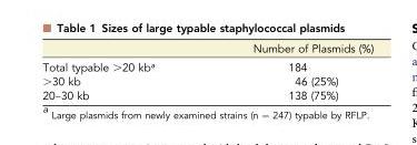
<table><thead><tr><td></td><td>Number of Plasmids (%)</td></tr></thead><tbody><tr><td>Total typable &gt;20 kb<sup>a</sup></td><td>184</td></tr><tr><td>&gt;30 kb</td><td>46 (25%)</td></tr><tr><td>20–30 kb</td><td>138 (75%)</td></tr></tbody></table>